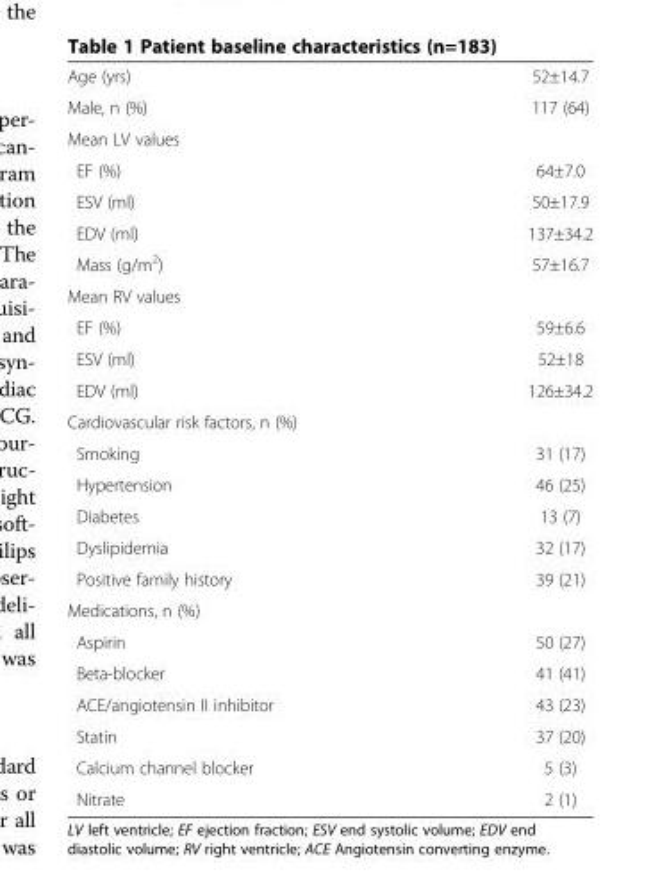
<table><tbody><tr><td>Age (yrs)</td><td>52±14.7</td></tr><tr><td>Male, n (%)</td><td>117 (64)</td></tr><tr><td colspan="2">Mean LV values</td></tr><tr><td>EF (%)</td><td>64±7.0</td></tr><tr><td>ESV (ml)</td><td>50±17.9</td></tr><tr><td>EDV (ml)</td><td>137±34.2</td></tr><tr><td>Mass (g/m<sup>2</sup>)</td><td>57±16.7</td></tr><tr><td colspan="2">Mean RV values</td></tr><tr><td>EF (%)</td><td>59±6.6</td></tr><tr><td>ESV (ml)</td><td>52±18</td></tr><tr><td>EDV (ml)</td><td>126±34.2</td></tr><tr><td colspan="2">Cardiovascular risk factors, n (%)</td></tr><tr><td>Smoking</td><td>31 (17)</td></tr><tr><td>Hypertension</td><td>46 (25)</td></tr><tr><td>Diabetes</td><td>13 (7)</td></tr><tr><td>Dyslipidemia</td><td>32 (17)</td></tr><tr><td>Positive family history</td><td>39 (21)</td></tr><tr><td colspan="2">Medications, n (%)</td></tr><tr><td>Aspirin</td><td>50 (27)</td></tr><tr><td>Beta-blocker</td><td>41 (41)</td></tr><tr><td>ACE/angiotensin II inhibitor</td><td>43 (23)</td></tr><tr><td>Statin</td><td>37 (20)</td></tr><tr><td>Calcium channel blocker</td><td>5 (3)</td></tr><tr><td>Nitrate</td><td>2 (1)</td></tr></tbody></table>